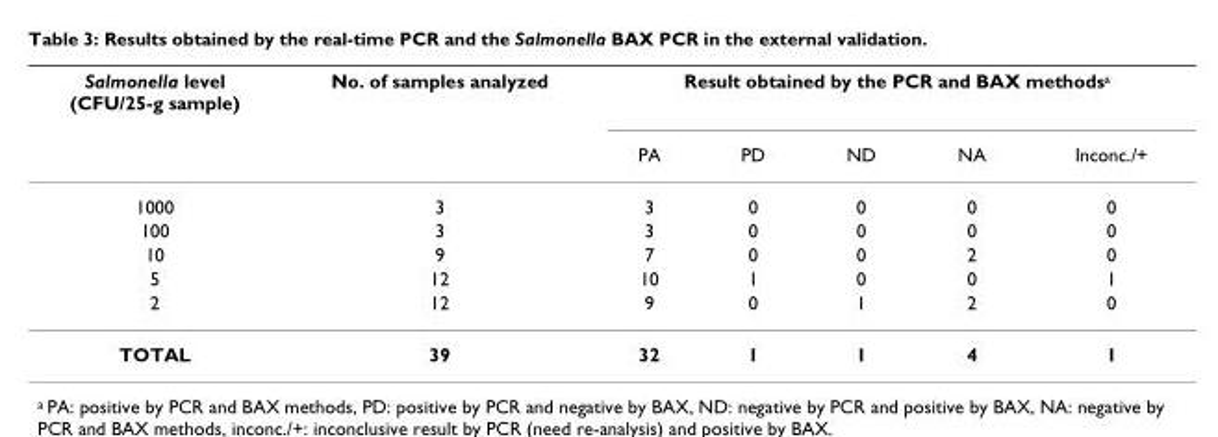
<table><thead><tr><td rowspan="2">Salmonella level (CFU/25-g sample)</td><td rowspan="2">No. of samples analyzed</td><td colspan="5">Result obtained by the PCR and BAX methods<sup>a</sup></td></tr><tr><td>PA</td><td>PD</td><td>ND</td><td>NA</td><td>Inconc./+</td></tr></thead><tbody><tr><td>1000</td><td>3</td><td>3</td><td>0</td><td>0</td><td>0</td><td>0</td></tr><tr><td>100</td><td>3</td><td>3</td><td>0</td><td>0</td><td>0</td><td>0</td></tr><tr><td>10</td><td>9</td><td>7</td><td>0</td><td>0</td><td>2</td><td>0</td></tr><tr><td>5</td><td>12</td><td>10</td><td>1</td><td>0</td><td>0</td><td>1</td></tr><tr><td>2</td><td>12</td><td>9</td><td>0</td><td>1</td><td>2</td><td>0</td></tr><tr><td>TOTAL</td><td>39</td><td>32</td><td>1</td><td>1</td><td>4</td><td>1</td></tr></tbody></table>